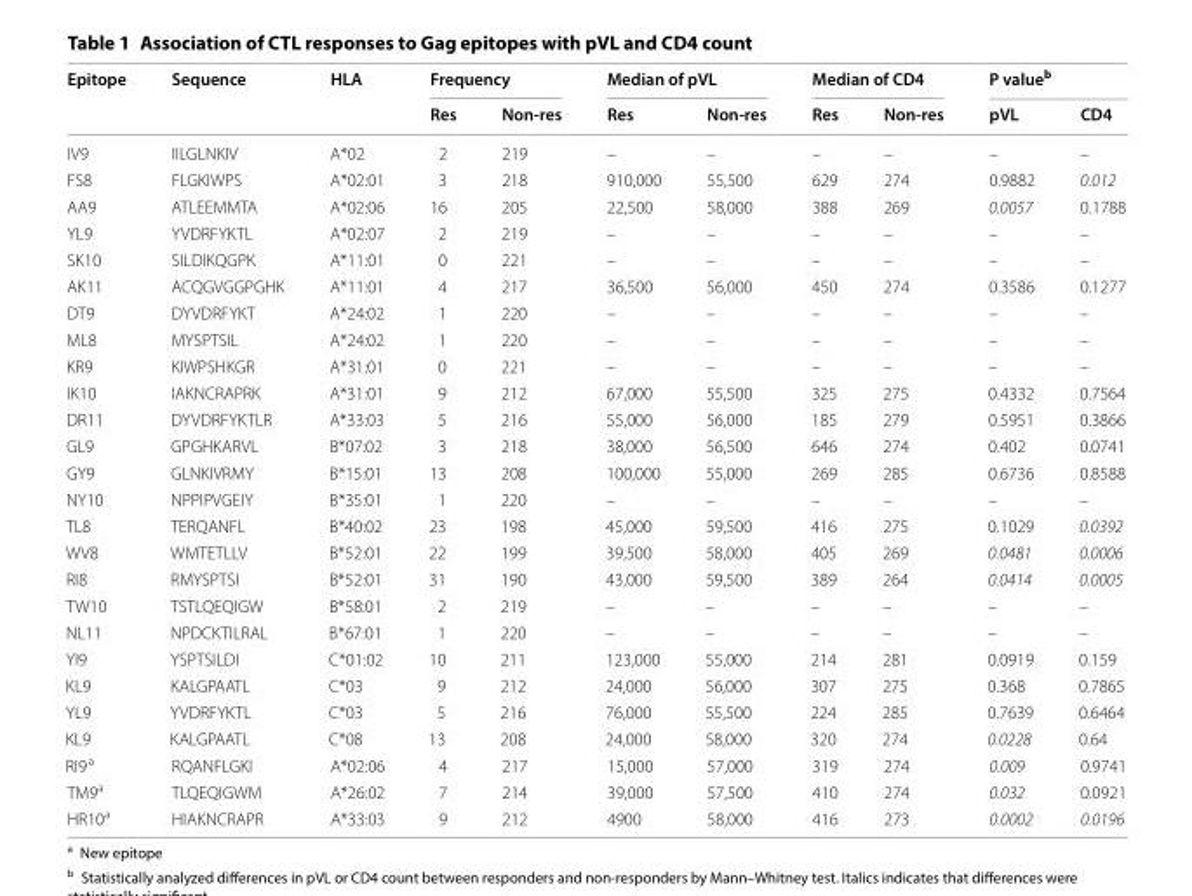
<table><thead><tr><td rowspan="2">Epitope</td><td rowspan="2">Sequence</td><td rowspan="2">HLA</td><td colspan="2">Frequency</td><td colspan="2">Median of pVL</td><td colspan="2">Median of CD4</td><td colspan="2">P value<sup>b</sup></td></tr><tr><td>Res</td><td>Non‑res</td><td>Res</td><td>Non‑res</td><td>Res</td><td>Non‑res</td><td>pVL</td><td>CD4</td></tr></thead><tbody><tr><td>IV9</td><td>IILGLNKIV</td><td>A*02</td><td>2</td><td>219</td><td>–</td><td>–</td><td>–</td><td>–</td><td>–</td><td>–</td></tr><tr><td>FS8</td><td>FLGKIWPS</td><td>A*02:01</td><td>3</td><td>218</td><td>910,000</td><td>55,500</td><td>629</td><td>274</td><td>0.9882</td><td>0.012</td></tr><tr><td>AA9</td><td>ATLEEMMTA</td><td>A*02:06</td><td>16</td><td>205</td><td>22,500</td><td>58,000</td><td>388</td><td>269</td><td>0.0057</td><td>0.1788</td></tr><tr><td>YL9</td><td>YVDRFYKTL</td><td>A*02:07</td><td>2</td><td>219</td><td>–</td><td>–</td><td>–</td><td>–</td><td>–</td><td>–</td></tr><tr><td>SK10</td><td>SILDIKQGPK</td><td>A*11:01</td><td>0</td><td>221</td><td>–</td><td>–</td><td>–</td><td>–</td><td>–</td><td>–</td></tr><tr><td>AK11</td><td>ACQGVGGPGHK</td><td>A*11:01</td><td>4</td><td>217</td><td>36,500</td><td>56,000</td><td>450</td><td>274</td><td>0.3586</td><td>0.1277</td></tr><tr><td>DT9</td><td>DYVDRFYKT</td><td>A*24:02</td><td>1</td><td>220</td><td>–</td><td>–</td><td>–</td><td>–</td><td>–</td><td>–</td></tr><tr><td>ML8</td><td>MYSPTSIL</td><td>A*24:02</td><td>1</td><td>220</td><td>–</td><td>–</td><td>–</td><td>–</td><td>–</td><td>–</td></tr><tr><td>KR9</td><td>KIWPSHKGR</td><td>A*31:01</td><td>0</td><td>221</td><td>–</td><td>–</td><td>–</td><td>–</td><td>–</td><td>–</td></tr><tr><td>IK10</td><td>IAKNCRAPRK</td><td>A*31:01</td><td>9</td><td>212</td><td>67,000</td><td>55,500</td><td>325</td><td>275</td><td>0.4332</td><td>0.7564</td></tr><tr><td>DR11</td><td>DYVDRFYKTLR</td><td>A*33:03</td><td>5</td><td>216</td><td>55,000</td><td>56,000</td><td>185</td><td>279</td><td>0.5951</td><td>0.3866</td></tr><tr><td>GL9</td><td>GPGHKARVL</td><td>B*07:02</td><td>3</td><td>218</td><td>38,000</td><td>56,500</td><td>646</td><td>274</td><td>0.402</td><td>0.0741</td></tr><tr><td>GY9</td><td>GLNKIVRMY</td><td>B*15:01</td><td>13</td><td>208</td><td>100,000</td><td>55,000</td><td>269</td><td>285</td><td>0.6736</td><td>0.8588</td></tr><tr><td>NY10</td><td>NPPIPVGEIY</td><td>B*35:01</td><td>1</td><td>220</td><td>–</td><td>–</td><td>–</td><td>–</td><td>–</td><td>–</td></tr><tr><td>TL8</td><td>TERQANFL</td><td>B*40:02</td><td>23</td><td>198</td><td>45,000</td><td>59,500</td><td>416</td><td>275</td><td>0.1029</td><td>0.0392</td></tr><tr><td>WV8</td><td>WMTETLLV</td><td>B*52:01</td><td>22</td><td>199</td><td>39,500</td><td>58,000</td><td>405</td><td>269</td><td>0.0481</td><td>0.0006</td></tr><tr><td>RI8</td><td>RMYSPTSI</td><td>B*52:01</td><td>31</td><td>190</td><td>43,000</td><td>59,500</td><td>389</td><td>264</td><td>0.0414</td><td>0.0005</td></tr><tr><td>TW10</td><td>TSTLQEQIGW</td><td>B*58:01</td><td>2</td><td>219</td><td>–</td><td>–</td><td>–</td><td>–</td><td>–</td><td>–</td></tr><tr><td>NL11</td><td>NPDCKTILRAL</td><td>B*67:01</td><td>1</td><td>220</td><td>–</td><td>–</td><td>–</td><td>–</td><td>–</td><td>–</td></tr><tr><td>YI9</td><td>YSPTSILDI</td><td>C*01:02</td><td>10</td><td>211</td><td>123,000</td><td>55,000</td><td>214</td><td>281</td><td>0.0919</td><td>0.159</td></tr><tr><td>KL9</td><td>KALGPAATL</td><td>C*03</td><td>9</td><td>212</td><td>24,000</td><td>56,000</td><td>307</td><td>275</td><td>0.368</td><td>0.7865</td></tr><tr><td>YL9</td><td>YVDRFYKTL</td><td>C*03</td><td>5</td><td>216</td><td>76,000</td><td>55,500</td><td>224</td><td>285</td><td>0.7639</td><td>0.6464</td></tr><tr><td>KL9</td><td>KALGPAATL</td><td>C*08</td><td>13</td><td>208</td><td>24,000</td><td>58,000</td><td>320</td><td>274</td><td>0.0228</td><td>0.64</td></tr><tr><td>RI9<sup>a</sup></td><td>RQANFLGKI</td><td>A*02:06</td><td>4</td><td>217</td><td>15,000</td><td>57,000</td><td>319</td><td>274</td><td>0.009</td><td>0.9741</td></tr><tr><td>TM9<sup>a</sup></td><td>TLQEQIGWM</td><td>A*26:02</td><td>7</td><td>214</td><td>39,000</td><td>57,500</td><td>410</td><td>274</td><td>0.032</td><td>0.0921</td></tr><tr><td>HR10<sup>a</sup></td><td>HIAKNCRAPR</td><td>A*33:03</td><td>9</td><td>212</td><td>4900</td><td>58,000</td><td>416</td><td>273</td><td>0.0002</td><td>0.0196</td></tr></tbody></table>